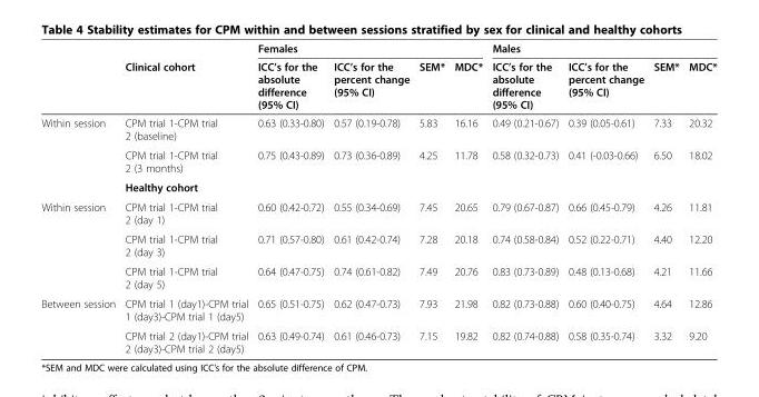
<table><thead><tr><td rowspan="2"></td><td rowspan="2">Clinical cohort</td><td colspan="4">Females</td><td colspan="4">Males</td></tr><tr><td>ICC’s for the absolute difference (95% CI)</td><td>ICC’s for the percent change (95% CI)</td><td>SEM*</td><td>MDC*</td><td>ICC’s for the absolute difference (95% CI)</td><td>ICC’s for the percent change (95% CI)</td><td>SEM*</td><td>MDC*</td></tr></thead><tbody><tr><td rowspan="3">Within session</td><td>CPM trial 1-CPM trial 2 (baseline)</td><td>0.63 (0.33-0.80)</td><td>0.57 (0.19-0.78)</td><td>5.83</td><td>16.16</td><td>0.49 (0.21-0.67)</td><td>0.39 (0.05-0.61)</td><td>7.33</td><td>20.32</td></tr><tr><td>CPM trial 1-CPM trial 2 (3 months)</td><td>0.75 (0.43-0.89)</td><td>0.73 (0.36-0.89)</td><td>4.25</td><td>11.78</td><td>0.58 (0.32-0.73)</td><td>0.41 (-0.03-0.66)</td><td>6.50</td><td>18.02</td></tr><tr><td colspan="9">Healthy cohort</td></tr><tr><td rowspan="3">Within session</td><td>CPM trial 1-CPM trial 2 (day 1)</td><td>0.60 (0.42-0.72)</td><td>0.55 (0.34-0.69)</td><td>7.45</td><td>20.65</td><td>0.79 (0.67-0.87)</td><td>0.66 (0.45-0.79)</td><td>4.26</td><td>11.81</td></tr><tr><td>CPM trial 1-CPM trial 2 (day 3)</td><td>0.71 (0.57-0.80)</td><td>0.61 (0.42-0.74)</td><td>7.28</td><td>20.18</td><td>0.74 (0.58-0.84)</td><td>0.52 (0.22-0.71)</td><td>4.40</td><td>12.20</td></tr><tr><td>CPM trial 1-CPM trial 2 (day 5)</td><td>0.64 (0.47-0.75)</td><td>0.74 (0.61-0.82)</td><td>7.49</td><td>20.76</td><td>0.83 (0.73-0.89)</td><td>0.48 (0.13-0.68)</td><td>4.21</td><td>11.66</td></tr><tr><td rowspan="2">Between session</td><td>CPM trial 1 (day1)-CPM trial 1 (day3)-CPM trial 1 (day5)</td><td>0.65 (0.51-0.75)</td><td>0.62 (0.47-0.73)</td><td>7.93</td><td>21.98</td><td>0.82 (0.73-0.88)</td><td>0.60 (0.40-0.75)</td><td>4.64</td><td>12.86</td></tr><tr><td>CPM trial 2 (day1)-CPM trial 2 (day3)-CPM trial 2 (day5)</td><td>0.63 (0.49-0.74)</td><td>0.61 (0.46-0.73)</td><td>7.15</td><td>19.82</td><td>0.82 (0.74-0.88)</td><td>0.58 (0.35-0.74)</td><td>3.32</td><td>9.20</td></tr></tbody></table>